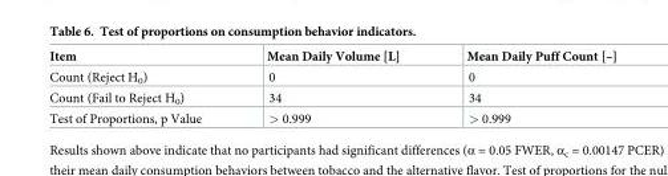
<table><thead><tr><td>Item</td><td>Mean Daily Volume [L]</td><td>Mean Daily Puff Count [–]</td></tr></thead><tbody><tr><td>Count (Reject H<sub>0</sub>)</td><td>0</td><td>0</td></tr><tr><td>Count (Fail to Reject H<sub>0</sub>)</td><td>34</td><td>34</td></tr><tr><td>Test of Proportions, p Value</td><td>&gt; 0.999</td><td>&gt; 0.999</td></tr></tbody></table>